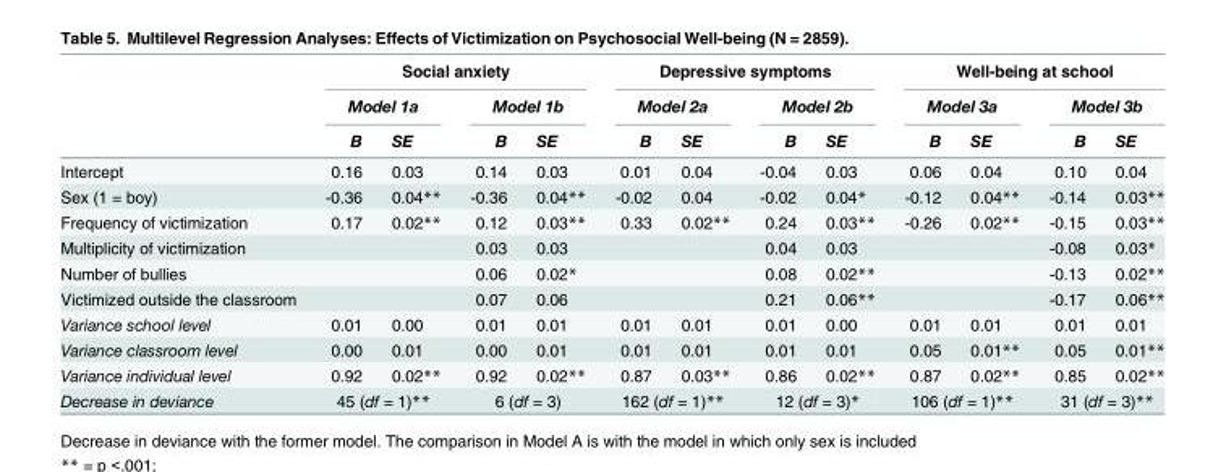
<table><thead><tr><td rowspan="3"></td><td colspan="4">Social anxiety</td><td colspan="4">Depressive symptoms</td><td colspan="4">Well-being at school</td></tr><tr><td colspan="2">Model 1a</td><td colspan="2">Model 1b</td><td colspan="2">Model 2a</td><td colspan="2">Model 2b</td><td colspan="2">Model 3a</td><td colspan="2">Model 3b</td></tr><tr><td>B</td><td>SE</td><td>B</td><td>SE</td><td>B</td><td>SE</td><td>B</td><td>SE</td><td>B</td><td>SE</td><td>B</td><td>SE</td></tr></thead><tbody><tr><td>Intercept</td><td>0.16</td><td>0.03</td><td>0.14</td><td>0.03</td><td>0.01</td><td>0.04</td><td>-0.04</td><td>0.03</td><td>0.06</td><td>0.04</td><td>0.10</td><td>0.04</td></tr><tr><td>Sex (1 = boy)</td><td>-0.36</td><td>0.04**</td><td>-0.36</td><td>0.04**</td><td>-0.02</td><td>0.04</td><td>-0.02</td><td>0.04*</td><td>-0.12</td><td>0.04**</td><td>-0.14</td><td>0.03**</td></tr><tr><td>Frequency of victimization</td><td>0.17</td><td>0.02**</td><td>0.12</td><td>0.03**</td><td>0.33</td><td>0.02**</td><td>0.24</td><td>0.03**</td><td>-0.26</td><td>0.02**</td><td>-0.15</td><td>0.03**</td></tr><tr><td>Multiplicity of victimization</td><td></td><td></td><td>0.03</td><td>0.03</td><td></td><td></td><td>0.04</td><td>0.03</td><td></td><td></td><td>-0.08</td><td>0.03*</td></tr><tr><td>Number of bullies</td><td></td><td></td><td>0.06</td><td>0.02*</td><td></td><td></td><td>0.08</td><td>0.02**</td><td></td><td></td><td>-0.13</td><td>0.02**</td></tr><tr><td>Victimized outside the classroom</td><td></td><td></td><td>0.07</td><td>0.06</td><td></td><td></td><td>0.21</td><td>0.06**</td><td></td><td></td><td>-0.17</td><td>0.06**</td></tr><tr><td>Variance school level</td><td>0.01</td><td>0.00</td><td>0.01</td><td>0.01</td><td>0.01</td><td>0.01</td><td>0.01</td><td>0.00</td><td>0.01</td><td>0.01</td><td>0.01</td><td>0.01</td></tr><tr><td>Variance classroom level</td><td>0.00</td><td>0.01</td><td>0.00</td><td>0.01</td><td>0.01</td><td>0.01</td><td>0.01</td><td>0.01</td><td>0.05</td><td>0.01**</td><td>0.05</td><td>0.01**</td></tr><tr><td>Variance individual level</td><td>0.92</td><td>0.02**</td><td>0.92</td><td>0.02**</td><td>0.87</td><td>0.03**</td><td>0.86</td><td>0.02**</td><td>0.87</td><td>0.02**</td><td>0.85</td><td>0.02**</td></tr><tr><td>Decrease in deviance</td><td colspan="2">45 (df = 1)**</td><td colspan="2">6 (df = 3)</td><td colspan="2">162 (df = 1)**</td><td colspan="2">12 (df = 3)*</td><td colspan="2">106 (df = 1)**</td><td colspan="2">31 (df = 3)**</td></tr></tbody></table>